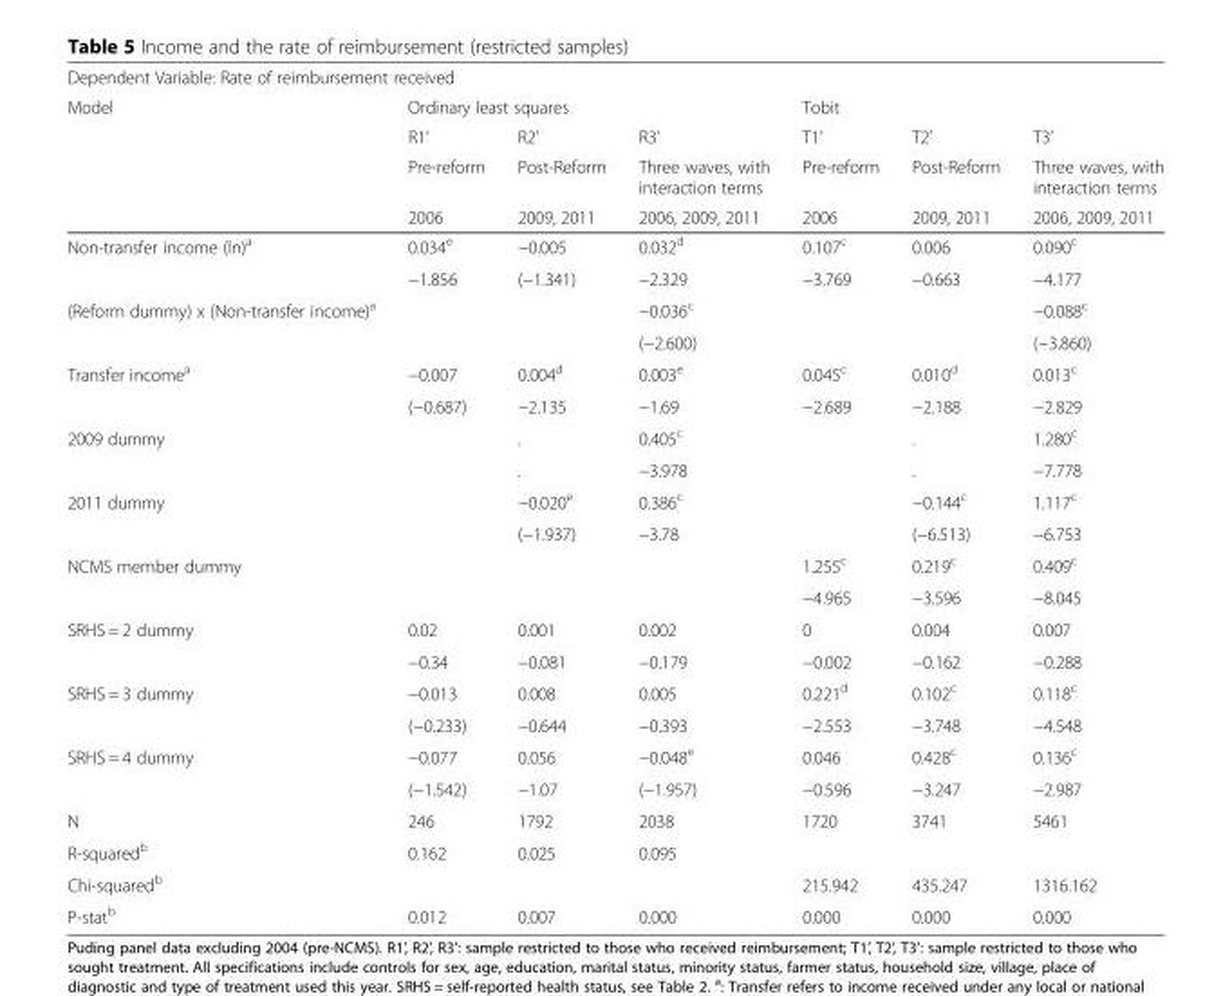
<table><thead><tr><td colspan="4">Dependent Variable: Rate of reimbursement received</td><td></td><td></td><td></td></tr><tr><td rowspan="4">Model</td><td colspan="3">Ordinary least squares</td><td colspan="3">Tobit</td></tr><tr><td rowspan="3">R1’ Pre-reform 2006</td><td rowspan="3">R2’ Post-Reform 2009, 2011</td><td rowspan="3">R3’ Three waves, with interaction terms 2006, 2009, 2011</td><td rowspan="3">T1’ Pre-reform 2006</td><td rowspan="3">T2’ Post-Reform 2009, 2011</td><td rowspan="3">T3’ Three waves, with interaction terms 2006, 2009, 2011</td></tr><tr></tr><tr></tr></thead><tbody><tr><td rowspan="2">Non-transfer income (ln)<sup>a</sup></td><td>0.034<sup>e</sup></td><td>−0.005</td><td>0.032<sup>d</sup></td><td>0.107<sup>c</sup></td><td>0.006</td><td>0.090<sup>c</sup></td></tr><tr><td>−1.856</td><td>(−1.341)</td><td>−2.329</td><td>−3.769</td><td>−0.663</td><td>−4.177</td></tr><tr><td rowspan="2">(Reform dummy) x (Non-transfer income)<sup>a</sup></td><td></td><td></td><td>−0.036<sup>c</sup></td><td></td><td></td><td>−0.088<sup>c</sup></td></tr><tr><td></td><td></td><td>(−2.600)</td><td></td><td></td><td>(−3.860)</td></tr><tr><td rowspan="2">Transfer income<sup>a</sup></td><td>−0.007</td><td>0.004<sup>d</sup></td><td>0.003<sup>e</sup></td><td>0.045<sup>c</sup></td><td>0.010<sup>d</sup></td><td>0.013<sup>c</sup></td></tr><tr><td>(−0.687)</td><td>−2.135</td><td>−1.69</td><td>−2.689</td><td>−2.188</td><td>−2.829</td></tr><tr><td rowspan="2">2009 dummy</td><td></td><td>.</td><td>0.405<sup>c</sup></td><td></td><td>.</td><td>1.280<sup>c</sup></td></tr><tr><td></td><td>.</td><td>−3.978</td><td></td><td>.</td><td>−7.778</td></tr><tr><td rowspan="2">2011 dummy</td><td></td><td>−0.020<sup>e</sup></td><td>0.386<sup>c</sup></td><td></td><td>−0.144<sup>c</sup></td><td>1.117<sup>c</sup></td></tr><tr><td></td><td>(−1.937)</td><td>−3.78</td><td></td><td>(−6.513)</td><td>−6.753</td></tr><tr><td rowspan="2">NCMS member dummy</td><td></td><td></td><td></td><td>1.255<sup>c</sup></td><td>0.219<sup>c</sup></td><td>0.409<sup>c</sup></td></tr><tr><td></td><td></td><td></td><td>−4.965</td><td>−3.596</td><td>−8.045</td></tr><tr><td rowspan="2">SRHS = 2 dummy</td><td>0.02</td><td>0.001</td><td>0.002</td><td>0</td><td>0.004</td><td>0.007</td></tr><tr><td>−0.34</td><td>−0.081</td><td>−0.179</td><td>−0.002</td><td>−0.162</td><td>−0.288</td></tr><tr><td rowspan="2">SRHS = 3 dummy</td><td>−0.013</td><td>0.008</td><td>0.005</td><td>0.221<sup>d</sup></td><td>0.102<sup>c</sup></td><td>0.118<sup>c</sup></td></tr><tr><td>(−0.233)</td><td>−0.644</td><td>−0.393</td><td>−2.553</td><td>−3.748</td><td>−4.548</td></tr><tr><td rowspan="2">SRHS = 4 dummy</td><td>−0.077</td><td>0.056</td><td>−0.048<sup>e</sup></td><td>0.046</td><td>0.428<sup>c</sup></td><td>0.136<sup>c</sup></td></tr><tr><td>(−1.542)</td><td>−1.07</td><td>(−1.957)</td><td>−0.596</td><td>−3.247</td><td>−2.987</td></tr><tr><td>N</td><td>246</td><td>1792</td><td>2038</td><td>1720</td><td>3741</td><td>5461</td></tr><tr><td>R-squared<sup>b</sup></td><td>0.162</td><td>0.025</td><td>0.095</td><td></td><td></td><td></td></tr><tr><td>Chi-squared<sup>b</sup></td><td></td><td></td><td></td><td>215.942</td><td>435.247</td><td>1316.162</td></tr><tr><td>P-stat<sup>b</sup></td><td>0.012</td><td>0.007</td><td>0.000</td><td>0.000</td><td>0.000</td><td>0.000</td></tr></tbody></table>